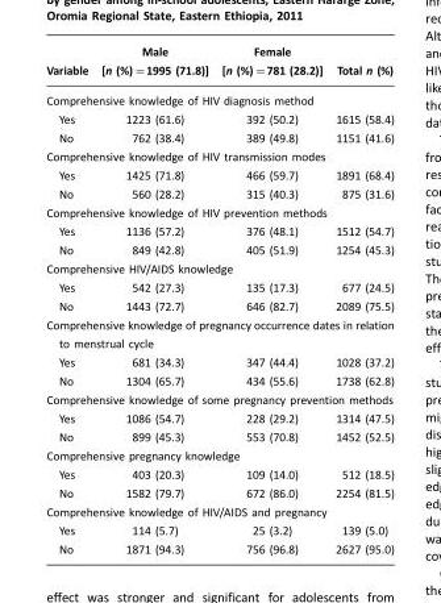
<table><thead><tr><td>Variable</td><td>Male [n (%)=1995 (71.8)]</td><td>Female [n (%)=781 (28.2)]</td><td>Total n (%)</td></tr></thead><tbody><tr><td colspan="4">Comprehensive knowledge of HIV diagnosis method</td></tr><tr><td>Yes</td><td>1223 (61.6)</td><td>392 (50.2)</td><td>1615 (58.4)</td></tr><tr><td>No</td><td>762 (38.4)</td><td>389 (49.8)</td><td>1151 (41.6)</td></tr><tr><td colspan="4">Comprehensive knowledge of HIV transmission modes</td></tr><tr><td>Yes</td><td>1425 (71.8)</td><td>466 (59.7)</td><td>1891 (68.4)</td></tr><tr><td>No</td><td>560 (28.2)</td><td>315 (40.3)</td><td>875 (31.6)</td></tr><tr><td colspan="4">Comprehensive knowledge of HIV prevention methods</td></tr><tr><td>Yes</td><td>1136 (57.2)</td><td>376 (48.1)</td><td>1512 (54.7)</td></tr><tr><td>No</td><td>849 (42.8)</td><td>405 (51.9)</td><td>1254 (45.3)</td></tr><tr><td colspan="4">Comprehensive HIV/AIDS knowledge</td></tr><tr><td>Yes</td><td>542 (27.3)</td><td>135 (17.3)</td><td>677 (24.5)</td></tr><tr><td>No</td><td>1443 (72.7)</td><td>646 (82.7)</td><td>2089 (75.5)</td></tr><tr><td colspan="4">Comprehensive knowledge of pregnancy occurrence dates in relation to menstrual cycle</td></tr><tr><td>Yes</td><td>681 (34.3)</td><td>347 (44.4)</td><td>1028 (37.2)</td></tr><tr><td>No</td><td>1304 (65.7)</td><td>434 (55.6)</td><td>1738 (62.8)</td></tr><tr><td colspan="4">Comprehensive knowledge of some pregnancy prevention methods</td></tr><tr><td>Yes</td><td>1086 (54.7)</td><td>228 (29.2)</td><td>1314 (47.5)</td></tr><tr><td>No</td><td>899 (45.3)</td><td>553 (70.8)</td><td>1452 (52.5)</td></tr><tr><td colspan="4">Comprehensive pregnancy knowledge</td></tr><tr><td>Yes</td><td>403 (20.3)</td><td>109 (14.0)</td><td>512 (18.5)</td></tr><tr><td>No</td><td>1582 (79.7)</td><td>672 (86.0)</td><td>2254 (81.5)</td></tr><tr><td colspan="4">Comprehensive knowledge of HIV/AIDS and pregnancy</td></tr><tr><td>Yes</td><td>114 (5.7)</td><td>25 (3.2)</td><td>139 (5.0)</td></tr><tr><td>No</td><td>1871 (94.3)</td><td>756 (96.8)</td><td>2627 (95.0)</td></tr></tbody></table>